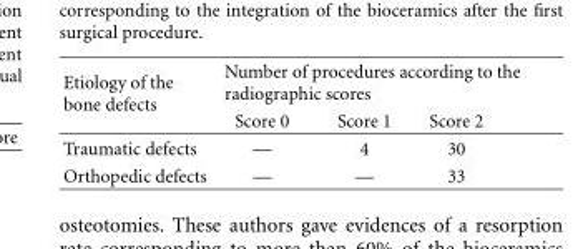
<table><thead><tr><td rowspan="2">Etiology of the bone defects</td><td colspan="3">Number of procedures according to the radiographic scores</td></tr><tr><td>Score 0</td><td>Score 1</td><td>Score 2</td></tr></thead><tbody><tr><td>Traumatic defects</td><td>—</td><td>4</td><td>30</td></tr><tr><td>Orthopedic defects</td><td>—</td><td>—</td><td>33</td></tr></tbody></table>